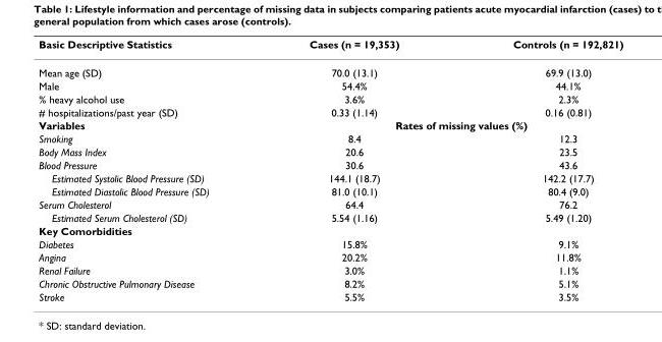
<table><thead><tr><td>Basic Descriptive Statistics</td><td>Cases (n = 19,353)</td><td>Controls (n = 192,821)</td></tr></thead><tbody><tr><td>Mean age (SD)</td><td>70.0 (13.1)</td><td>69.9 (13.0)</td></tr><tr><td>Male</td><td>54.4%</td><td>44.1%</td></tr><tr><td>% heavy alcohol use</td><td>3.6%</td><td>2.3%</td></tr><tr><td># hospitalizations/past year (SD)</td><td>0.33 (1.14)</td><td>0.16 (0.81)</td></tr><tr><td>Variables</td><td colspan="2">Rates of missing values (%)</td></tr><tr><td>Smoking</td><td>8.4</td><td>12.3</td></tr><tr><td>Body Mass Index</td><td>20.6</td><td>23.5</td></tr><tr><td>Blood Pressure</td><td>30.6</td><td>43.6</td></tr><tr><td>Estimated Systolic Blood Pressure (SD)</td><td>144.1 (18.7)</td><td>142.2 (17.7)</td></tr><tr><td>Estimated Diastolic Blood Pressure (SD)</td><td>81.0 (10.1)</td><td>80.4 (9.0)</td></tr><tr><td>Serum Cholesterol</td><td>64.4</td><td>76.2</td></tr><tr><td>Estimated Serum Cholesterol (SD)</td><td>5.54 (1.16)</td><td>5.49 (1.20)</td></tr><tr><td colspan="3">Key Comorbidities</td></tr><tr><td>Diabetes</td><td>15.8%</td><td>9.1%</td></tr><tr><td>Angina</td><td>20.2%</td><td>11.8%</td></tr><tr><td>Renal Failure</td><td>3.0%</td><td>1.1%</td></tr><tr><td>Chronic Obstructive Pulmonary Disease</td><td>8.2%</td><td>5.1%</td></tr><tr><td>Stroke</td><td>5.5%</td><td>3.5%</td></tr></tbody></table>